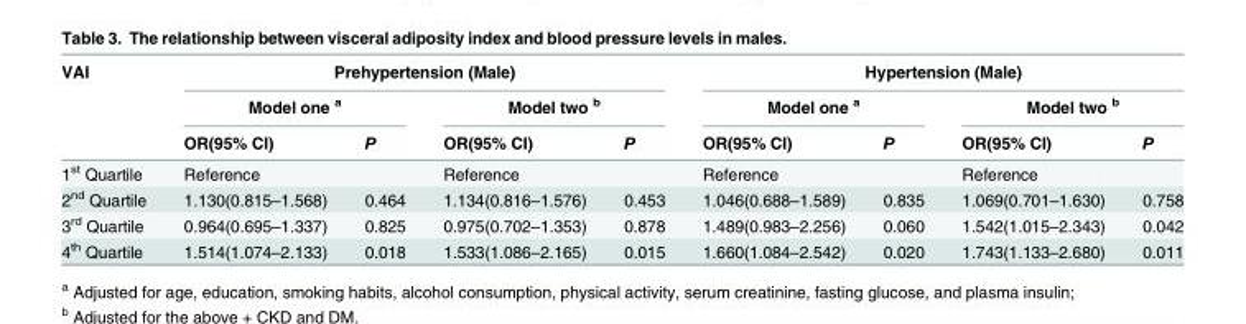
<table><thead><tr><td rowspan="3">VAI</td><td colspan="4">Prehypertension (Male)</td><td colspan="4">Hypertension (Male)</td></tr><tr><td colspan="2">Model one <sup>a</sup></td><td colspan="2">Model two <sup>b</sup></td><td colspan="2">Model one <sup>a</sup></td><td colspan="2">Model two <sup>b</sup></td></tr><tr><td>OR(95% CI)</td><td>P</td><td>OR(95% CI)</td><td>P</td><td>OR(95% CI)</td><td>P</td><td>OR(95% CI)</td><td>P</td></tr></thead><tbody><tr><td>1<sup>st</sup> Quartile</td><td>Reference</td><td></td><td>Reference</td><td></td><td>Reference</td><td></td><td>Reference</td><td></td></tr><tr><td>2<sup>nd</sup> Quartile</td><td>1.130(0.815–1.568)</td><td>0.464</td><td>1.134(0.816–1.576)</td><td>0.453</td><td>1.046(0.688–1.589)</td><td>0.835</td><td>1.069(0.701–1.630)</td><td>0.758</td></tr><tr><td>3<sup>rd</sup> Quartile</td><td>0.964(0.695–1.337)</td><td>0.825</td><td>0.975(0.702–1.353)</td><td>0.878</td><td>1.489(0.983–2.256)</td><td>0.060</td><td>1.542(1.015–2.343)</td><td>0.042</td></tr><tr><td>4<sup>th</sup> Quartile</td><td>1.514(1.074–2.133)</td><td>0.018</td><td>1.533(1.086–2.165)</td><td>0.015</td><td>1.660(1.084–2.542)</td><td>0.020</td><td>1.743(1.133–2.680)</td><td>0.011</td></tr></tbody></table>